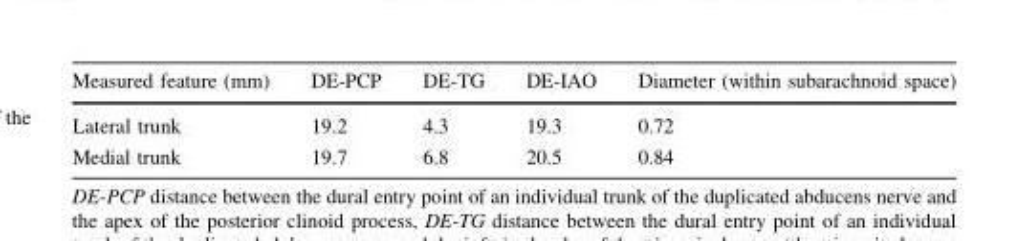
<table><thead><tr><td>Measured feature (mm)</td><td>DE-PCP</td><td>DE-TG</td><td>DE-IAO</td><td>Diameter (within subarachnoid space)</td></tr></thead><tbody><tr><td>Lateral trunk</td><td>19.2</td><td>4.3</td><td>19.3</td><td>0.72</td></tr><tr><td>Medial trunk</td><td>19.7</td><td>6.8</td><td>20.5</td><td>0.84</td></tr></tbody></table>